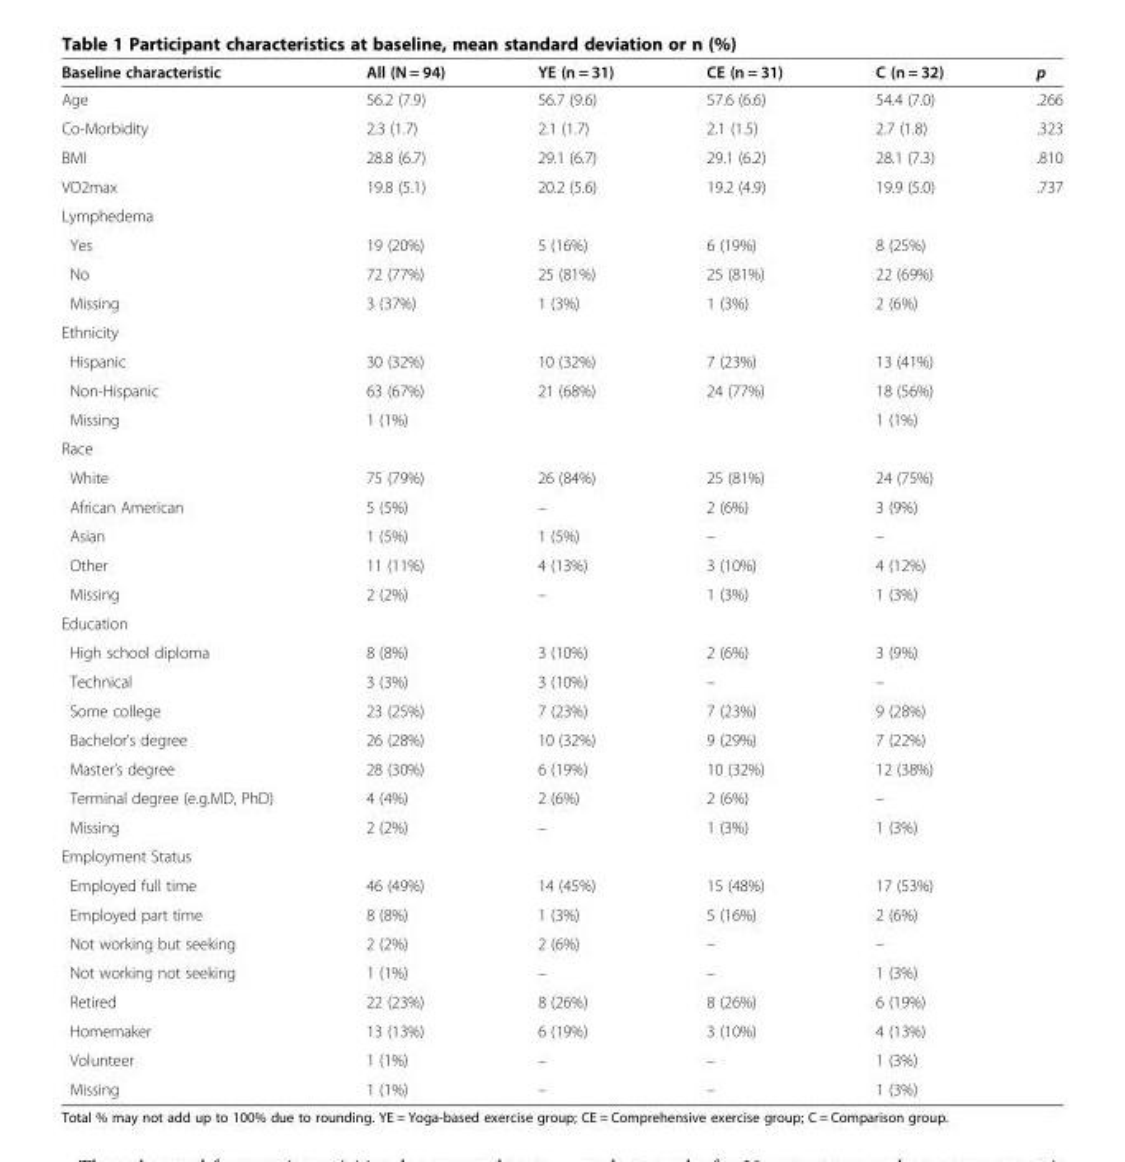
<table><thead><tr><td>Baseline characteristic</td><td>All (N = 94)</td><td>YE (n = 31)</td><td>CE (n = 31)</td><td>C (n = 32)</td><td>p</td></tr></thead><tbody><tr><td>Age</td><td>56.2 (7.9)</td><td>56.7 (9.6)</td><td>57.6 (6.6)</td><td>54.4 (7.0)</td><td>.266</td></tr><tr><td>Co-Morbidity</td><td>2.3 (1.7)</td><td>2.1 (1.7)</td><td>2.1 (1.5)</td><td>2.7 (1.8)</td><td>.323</td></tr><tr><td>BMI</td><td>28.8 (6.7)</td><td>29.1 (6.7)</td><td>29.1 (6.2)</td><td>28.1 (7.3)</td><td>.810</td></tr><tr><td>VO2max</td><td>19.8 (5.1)</td><td>20.2 (5.6)</td><td>19.2 (4.9)</td><td>19.9 (5.0)</td><td>.737</td></tr><tr><td colspan="6">Lymphedema</td></tr><tr><td>Yes</td><td>19 (20%)</td><td>5 (16%)</td><td>6 (19%)</td><td>8 (25%)</td><td></td></tr><tr><td>No</td><td>72 (77%)</td><td>25 (81%)</td><td>25 (81%)</td><td>22 (69%)</td><td></td></tr><tr><td>Missing</td><td>3 (37%)</td><td>1 (3%)</td><td>1 (3%)</td><td>2 (6%)</td><td></td></tr><tr><td colspan="6">Ethnicity</td></tr><tr><td>Hispanic</td><td>30 (32%)</td><td>10 (32%)</td><td>7 (23%)</td><td>13 (41%)</td><td></td></tr><tr><td>Non-Hispanic</td><td>63 (67%)</td><td>21 (68%)</td><td>24 (77%)</td><td>18 (56%)</td><td></td></tr><tr><td>Missing</td><td>1 (1%)</td><td></td><td></td><td>1 (1%)</td><td></td></tr><tr><td colspan="6">Race</td></tr><tr><td>White</td><td>75 (79%)</td><td>26 (84%)</td><td>25 (81%)</td><td>24 (75%)</td><td></td></tr><tr><td>African American</td><td>5 (5%)</td><td>–</td><td>2 (6%)</td><td>3 (9%)</td><td></td></tr><tr><td>Asian</td><td>1 (5%)</td><td>1 (5%)</td><td>–</td><td>–</td><td></td></tr><tr><td>Other</td><td>11 (11%)</td><td>4 (13%)</td><td>3 (10%)</td><td>4 (12%)</td><td></td></tr><tr><td>Missing</td><td>2 (2%)</td><td>–</td><td>1 (3%)</td><td>1 (3%)</td><td></td></tr><tr><td colspan="6">Education</td></tr><tr><td>High school diploma</td><td>8 (8%)</td><td>3 (10%)</td><td>2 (6%)</td><td>3 (9%)</td><td></td></tr><tr><td>Technical</td><td>3 (3%)</td><td>3 (10%)</td><td>–</td><td>–</td><td></td></tr><tr><td>Some college</td><td>23 (25%)</td><td>7 (23%)</td><td>7 (23%)</td><td>9 (28%)</td><td></td></tr><tr><td>Bachelor’s degree</td><td>26 (28%)</td><td>10 (32%)</td><td>9 (29%)</td><td>7 (22%)</td><td></td></tr><tr><td>Master’s degree</td><td>28 (30%)</td><td>6 (19%)</td><td>10 (32%)</td><td>12 (38%)</td><td></td></tr><tr><td>Terminal degree (e.g.MD, PhD)</td><td>4 (4%)</td><td>2 (6%)</td><td>2 (6%)</td><td>–</td><td></td></tr><tr><td>Missing</td><td>2 (2%)</td><td>–</td><td>1 (3%)</td><td>1 (3%)</td><td></td></tr><tr><td colspan="6">Employment Status</td></tr><tr><td>Employed full time</td><td>46 (49%)</td><td>14 (45%)</td><td>15 (48%)</td><td>17 (53%)</td><td></td></tr><tr><td>Employed part time</td><td>8 (8%)</td><td>1 (3%)</td><td>5 (16%)</td><td>2 (6%)</td><td></td></tr><tr><td>Not working but seeking</td><td>2 (2%)</td><td>2 (6%)</td><td>–</td><td>–</td><td></td></tr><tr><td>Not working not seeking</td><td>1 (1%)</td><td>–</td><td>–</td><td>1 (3%)</td><td></td></tr><tr><td>Retired</td><td>22 (23%)</td><td>8 (26%)</td><td>8 (26%)</td><td>6 (19%)</td><td></td></tr><tr><td>Homemaker</td><td>13 (13%)</td><td>6 (19%)</td><td>3 (10%)</td><td>4 (13%)</td><td></td></tr><tr><td>Volunteer</td><td>1 (1%)</td><td>–</td><td>–</td><td>1 (3%)</td><td></td></tr><tr><td>Missing</td><td>1 (1%)</td><td>–</td><td>–</td><td>1 (3%)</td><td></td></tr></tbody></table>